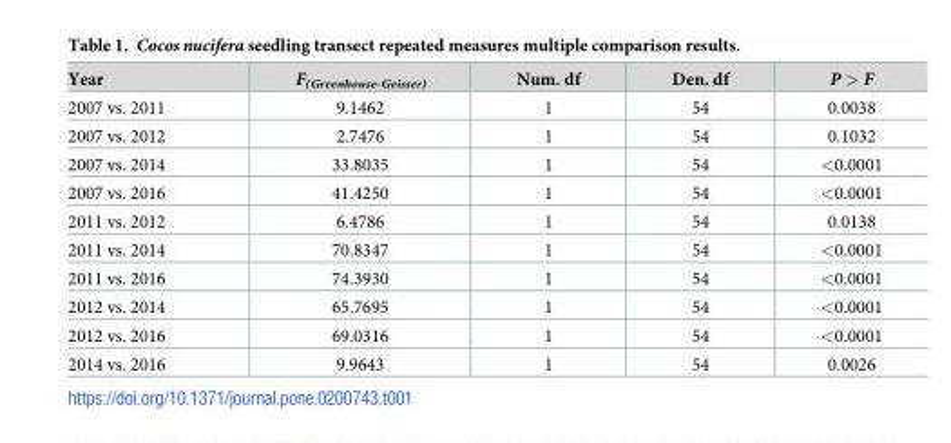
<table><thead><tr><td>Year</td><td>F<sub>(Greenhouse-Geisser)</sub></td><td>Num. df</td><td>Den. df</td><td>P &gt; F</td></tr></thead><tbody><tr><td>2007 vs. 2011</td><td>9.1462</td><td>1</td><td>54</td><td>0.0038</td></tr><tr><td>2007 vs. 2012</td><td>2.7476</td><td>1</td><td>54</td><td>0.1032</td></tr><tr><td>2007 vs. 2014</td><td>33.8035</td><td>1</td><td>54</td><td>&lt;0.0001</td></tr><tr><td>2007 vs. 2016</td><td>41.4250</td><td>1</td><td>54</td><td>&lt;0.0001</td></tr><tr><td>2011 vs. 2012</td><td>6.4786</td><td>1</td><td>54</td><td>0.0138</td></tr><tr><td>2011 vs. 2014</td><td>70.8347</td><td>1</td><td>54</td><td>&lt;0.0001</td></tr><tr><td>2011 vs. 2016</td><td>74.3930</td><td>1</td><td>54</td><td>&lt;0.0001</td></tr><tr><td>2012 vs. 2014</td><td>65.7695</td><td>1</td><td>54</td><td>&lt;0.0001</td></tr><tr><td>2012 vs. 2016</td><td>69.0316</td><td>1</td><td>54</td><td>&lt;0.0001</td></tr><tr><td>2014 vs. 2016</td><td>9.9643</td><td>1</td><td>54</td><td>0.0026</td></tr></tbody></table>